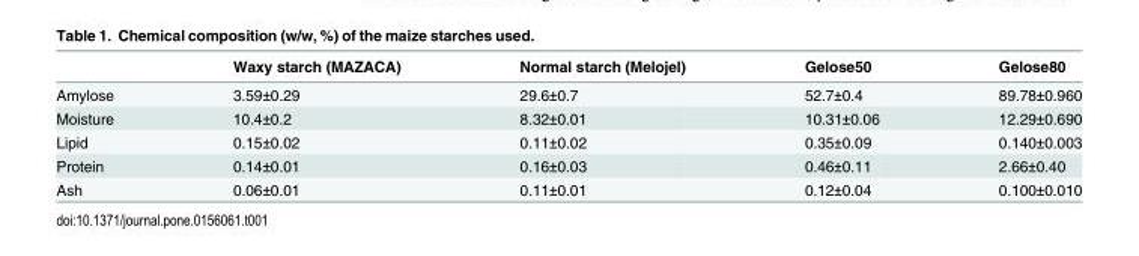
<table><thead><tr><td></td><td>Waxy starch (MAZACA)</td><td>Normal starch (Melojel)</td><td>Gelose50</td><td>Gelose80</td></tr></thead><tbody><tr><td>Amylose</td><td>3.59±0.29</td><td>29.6±0.7</td><td>52.7±0.4</td><td>89.78±0.960</td></tr><tr><td>Moisture</td><td>10.4±0.2</td><td>8.32±0.01</td><td>10.31±0.06</td><td>12.29±0.690</td></tr><tr><td>Lipid</td><td>0.15±0.02</td><td>0.11±0.02</td><td>0.35±0.09</td><td>0.140±0.003</td></tr><tr><td>Protein</td><td>0.14±0.01</td><td>0.16±0.03</td><td>0.46±0.11</td><td>2.66±0.40</td></tr><tr><td>Ash</td><td>0.06±0.01</td><td>0.11±0.01</td><td>0.12±0.04</td><td>0.100±0.010</td></tr></tbody></table>